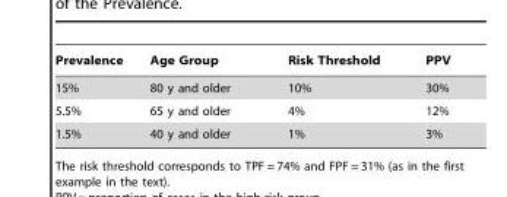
<table><thead><tr><td>Prevalence</td><td>Age Group</td><td>Risk Threshold</td><td>PPV</td></tr></thead><tbody><tr><td>15%</td><td>80 y and older</td><td>10%</td><td>30%</td></tr><tr><td>5.5%</td><td>65 y and older</td><td>4%</td><td>12%</td></tr><tr><td>1.5%</td><td>40 y and older</td><td>1%</td><td>3%</td></tr></tbody></table>